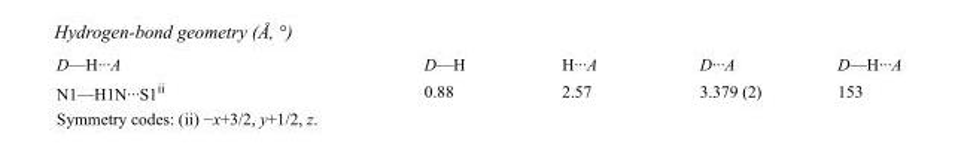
<table><tbody><tr><td>D—H···A</td><td>D—H</td><td>H···A</td><td>D···A</td><td>D—H···A</td></tr><tr><td>N1—H1N···S1<sup>ii</sup></td><td>0.88</td><td>2.57</td><td>3.379 (2)</td><td>153</td></tr></tbody></table>